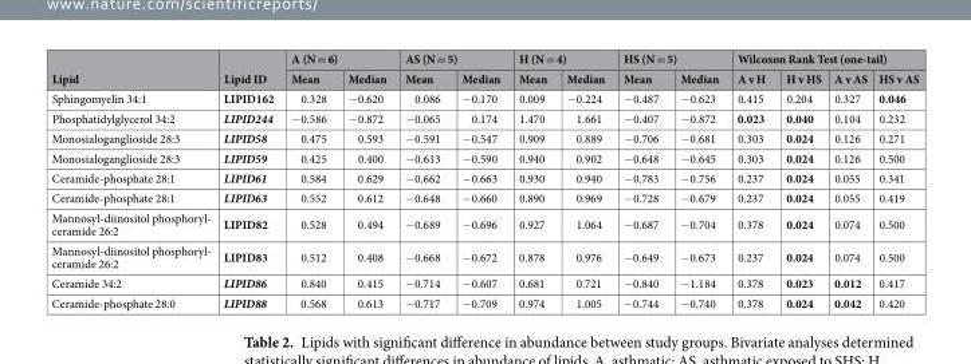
<table><thead><tr><td rowspan="2">Lipid</td><td rowspan="2">Lipid ID</td><td colspan="2">A (N = 6)</td><td colspan="2">AS (N = 5)</td><td colspan="2">H (N = 4)</td><td colspan="2">HS (N = 5)</td><td colspan="4">Wilcoxon Rank Test (one-tail)</td></tr><tr><td>Mean</td><td>Median</td><td>Mean</td><td>Median</td><td>Mean</td><td>Median</td><td>Mean</td><td>Median</td><td>A v H</td><td>H v HS</td><td>A v AS</td><td>HS v AS</td></tr></thead><tbody><tr><td>Sphingomyelin 34:1</td><td>LIPID162</td><td>0.328</td><td>−0.620</td><td>0.086</td><td>−0.170</td><td>0.009</td><td>−0.224</td><td>−0.487</td><td>−0.623</td><td>0.415</td><td>0.204</td><td>0.327</td><td>0.046</td></tr><tr><td>Phosphatidylglycerol 34:2</td><td>LIPID244</td><td>−0.586</td><td>−0.872</td><td>−0.065</td><td>0.174</td><td>1.470</td><td>1.661</td><td>−0.407</td><td>−0.872</td><td>0.023</td><td>0.040</td><td>0.104</td><td>0.232</td></tr><tr><td>Monosialoganglioside 28:3</td><td>LIPID58</td><td>0.475</td><td>0.593</td><td>−0.591</td><td>−0.547</td><td>0.909</td><td>0.889</td><td>−0.706</td><td>−0.681</td><td>0.303</td><td>0.024</td><td>0.126</td><td>0.271</td></tr><tr><td>Monosialoganglioside 28:3</td><td>LIPID59</td><td>0.425</td><td>0.400</td><td>−0.613</td><td>−0.590</td><td>0.940</td><td>0.902</td><td>−0.648</td><td>−0.645</td><td>0.303</td><td>0.024</td><td>0.126</td><td>0.500</td></tr><tr><td>Ceramide-phosphate 28:1</td><td>LIPID61</td><td>0.584</td><td>0.629</td><td>−0.662</td><td>−0.663</td><td>0.930</td><td>0.940</td><td>−0.783</td><td>−0.756</td><td>0.237</td><td>0.024</td><td>0.055</td><td>0.341</td></tr><tr><td>Ceramide-phosphate 28:1</td><td>LIPID63</td><td>0.552</td><td>0.612</td><td>−0.648</td><td>−0.660</td><td>0.890</td><td>0.969</td><td>−0.728</td><td>−0.679</td><td>0.237</td><td>0.024</td><td>0.055</td><td>0.419</td></tr><tr><td>Mannosyl-diinositol phosphoryl- ceramide 26:2</td><td>LIPID82</td><td>0.528</td><td>0.494</td><td>−0.689</td><td>−0.696</td><td>0.927</td><td>1.064</td><td>−0.687</td><td>−0.704</td><td>0.378</td><td>0.024</td><td>0.074</td><td>0.500</td></tr><tr><td>Mannosyl-diinositol phosphoryl- ceramide 26:2</td><td>LIPID83</td><td>0.512</td><td>0.408</td><td>−0.668</td><td>−0.672</td><td>0.878</td><td>0.976</td><td>−0.649</td><td>−0.673</td><td>0.237</td><td>0.024</td><td>0.074</td><td>0.500</td></tr><tr><td>Ceramide 34:2</td><td>LIPID86</td><td>0.840</td><td>0.415</td><td>−0.714</td><td>−0.607</td><td>0.681</td><td>0.721</td><td>−0.840</td><td>−1.184</td><td>0.378</td><td>0.023</td><td>0.012</td><td>0.417</td></tr><tr><td>Ceramide-phosphate 28:0</td><td>LIPID88</td><td>0.568</td><td>0.613</td><td>−0.717</td><td>−0.709</td><td>0.974</td><td>1.005</td><td>−0.744</td><td>−0.740</td><td>0.378</td><td>0.024</td><td>0.042</td><td>0.420</td></tr></tbody></table>